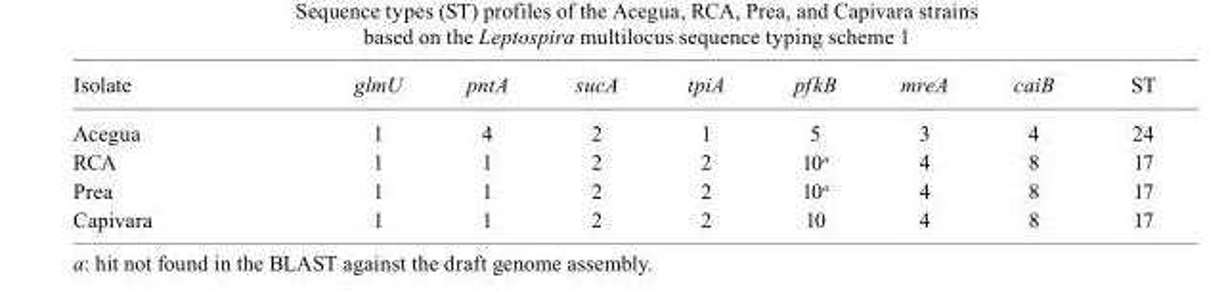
<table><thead><tr><td>Isolate</td><td>glmU</td><td>pntA</td><td>sucA</td><td>tpiA</td><td>pfkB</td><td>mreA</td><td>caiB</td><td>ST</td></tr></thead><tbody><tr><td>Acegua</td><td>1</td><td>4</td><td>2</td><td>1</td><td>5</td><td>3</td><td>4</td><td>24</td></tr><tr><td>RCA</td><td>1</td><td>1</td><td>2</td><td>2</td><td>10<sup>a</sup></td><td>4</td><td>8</td><td>17</td></tr><tr><td>Prea</td><td>1</td><td>1</td><td>2</td><td>2</td><td>10<sup>a</sup></td><td>4</td><td>8</td><td>17</td></tr><tr><td>Capivara</td><td>1</td><td>1</td><td>2</td><td>2</td><td>10</td><td>4</td><td>8</td><td>17</td></tr></tbody></table>